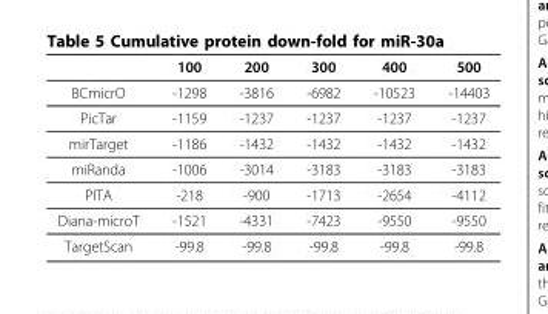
<table><thead><tr><td></td><td>100</td><td>200</td><td>300</td><td>400</td><td>500</td></tr></thead><tbody><tr><td>BCmicrO</td><td>-1298</td><td>-3816</td><td>-6982</td><td>-10523</td><td>-14403</td></tr><tr><td>PicTar</td><td>-1159</td><td>-1237</td><td>-1237</td><td>-1237</td><td>-1237</td></tr><tr><td>mirTarget</td><td>-1186</td><td>-1432</td><td>-1432</td><td>-1432</td><td>-1432</td></tr><tr><td>miRanda</td><td>-1006</td><td>-3014</td><td>-3183</td><td>-3183</td><td>-3183</td></tr><tr><td>PITA</td><td>-218</td><td>-900</td><td>-1713</td><td>-2654</td><td>-4112</td></tr><tr><td>Diana-microT</td><td>-1521</td><td>-4331</td><td>-7423</td><td>-9550</td><td>-9550</td></tr><tr><td>TargetScan</td><td>-99.8</td><td>-99.8</td><td>-99.8</td><td>-99.8</td><td>-99.8</td></tr></tbody></table>